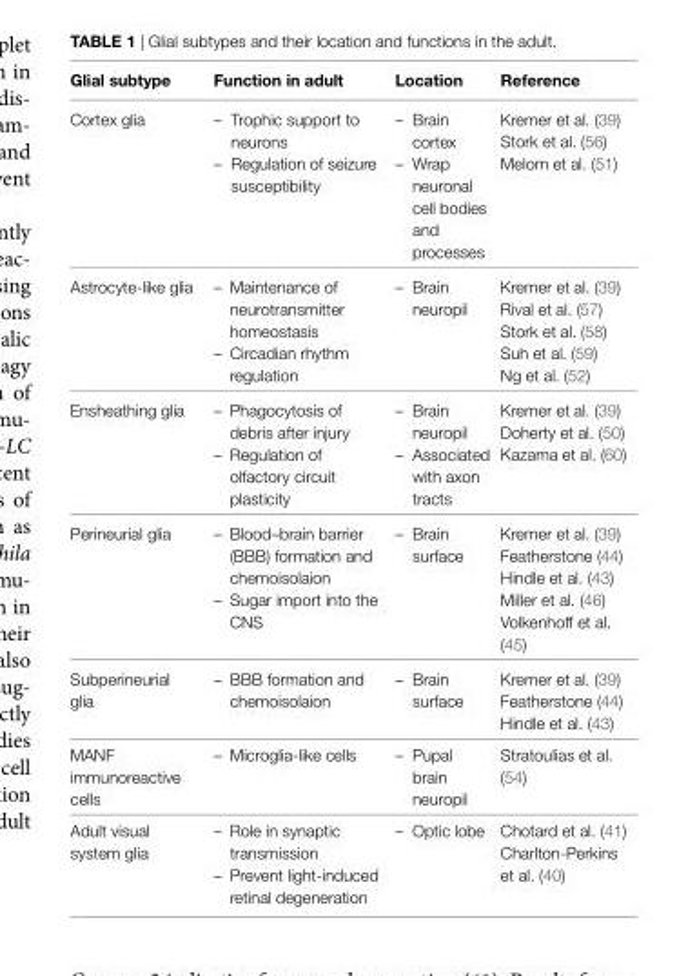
<table><thead><tr><td>Glial subtype</td><td>Function in adult</td><td>Location</td><td>Reference</td></tr></thead><tbody><tr><td>Cortex glia</td><td>– Trophic support to neurons – Regulation of seizure susceptibility</td><td>– Brain cortex – Wrap neuronal cell bodies and processes</td><td>Kremer et al. (39) Stork et al. (56) Melom et al. (51)</td></tr><tr><td>Astrocyte-like glia</td><td>– Maintenance of neurotransmitter homeostasis – Circadian rhythm regulation</td><td>– Brain neuropil</td><td>Kremer et al. (39) Rival et al. (57) Stork et al. (58) Suh et al. (59) Ng et al. (52)</td></tr><tr><td>Ensheathing glia</td><td>– Phagocytosis of debris after injury – Regulation of olfactory circuit plasticity</td><td>– Brain neuropil – Associated with axon tracts</td><td>Kremer et al. (39) Doherty et al. (50) Kazama et al. (60)</td></tr><tr><td>Perineurial glia</td><td>– Blood–brain barrier (BBB) formation and chemoisolaion – Sugar import into the CNS</td><td>– Brain surface</td><td>Kremer et al. (39) Featherstone (44) Hindle et al. (43) Miller et al. (46) Volkenhoff et al. (45)</td></tr><tr><td>Subperineurial glia</td><td>– BBB formation and chemoisolaion</td><td>– Brain surface</td><td>Kremer et al. (39) Featherstone (44) Hindle et al. (43)</td></tr><tr><td>MANF immunoreactive cells</td><td>– Microglia-like cells</td><td>– Pupal brain neuropil</td><td>Stratoulias et al. (54)</td></tr><tr><td>Adult visual system glia</td><td>– Role in synaptic transmission – Prevent light-induced retinal degeneration</td><td>– Optic lobe</td><td>Chotard et al. (41) Charlton-Perkins et al. (40)</td></tr></tbody></table>